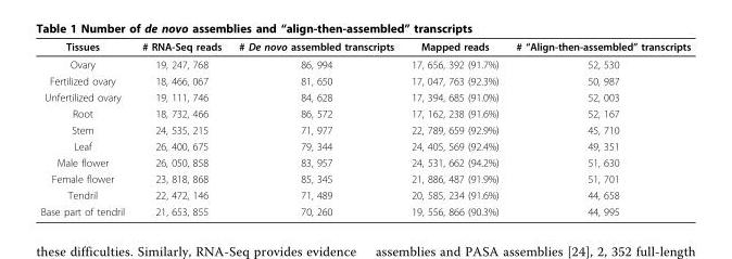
<table><thead><tr><td>Tissues</td><td># RNA-Seq reads</td><td># De novo assembled transcripts</td><td>Mapped reads</td><td># “Align-then-assembled” transcripts</td></tr></thead><tbody><tr><td>Ovary</td><td>19, 247, 768</td><td>86, 994</td><td>17, 656, 392 (91.7%)</td><td>52, 530</td></tr><tr><td>Fertilized ovary</td><td>18, 466, 067</td><td>81, 650</td><td>17, 047, 763 (92.3%)</td><td>50, 987</td></tr><tr><td>Unfertilized ovary</td><td>19, 111, 746</td><td>84, 628</td><td>17, 394, 685 (91.0%)</td><td>52, 003</td></tr><tr><td>Root</td><td>18, 732, 466</td><td>86, 572</td><td>17, 162, 238 (91.6%)</td><td>52, 167</td></tr><tr><td>Stem</td><td>24, 535, 215</td><td>71, 977</td><td>22, 789, 659 (92.9%)</td><td>45, 710</td></tr><tr><td>Leaf</td><td>26, 400, 675</td><td>79, 344</td><td>24, 405, 569 (92.4%)</td><td>49, 351</td></tr><tr><td>Male flower</td><td>26, 050, 858</td><td>83, 957</td><td>24, 531, 662 (94.2%)</td><td>51, 630</td></tr><tr><td>Female flower</td><td>23, 818, 868</td><td>85, 345</td><td>21, 886, 487 (91.9%)</td><td>51, 701</td></tr><tr><td>Tendril</td><td>22, 472, 146</td><td>71, 489</td><td>20, 585, 234 (91.6%)</td><td>44, 658</td></tr><tr><td>Base part of tendril</td><td>21, 653, 855</td><td>70, 260</td><td>19, 556, 866 (90.3%)</td><td>44, 995</td></tr></tbody></table>